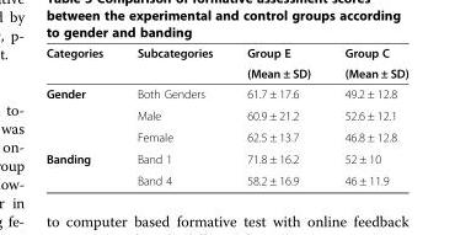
<table><thead><tr><td rowspan="2">Categories</td><td rowspan="2">Subcategories</td><td rowspan="2">Group E (Mean ± SD)</td><td rowspan="2">Group C (Mean ± SD)</td></tr><tr></tr></thead><tbody><tr><td rowspan="3">Gender</td><td>Both Genders</td><td>61.7 ± 17.6</td><td>49.2 ± 12.8</td></tr><tr><td>Male</td><td>60.9 ± 21.2</td><td>52.6 ± 12.1</td></tr><tr><td>Female</td><td>62.5 ± 13.7</td><td>46.8 ± 12.8</td></tr><tr><td rowspan="2">Banding</td><td>Band 1</td><td>71.8 ± 16.2</td><td>52 ± 10</td></tr><tr><td>Band 4</td><td>58.2 ± 16.9</td><td>46 ± 11.9</td></tr></tbody></table>